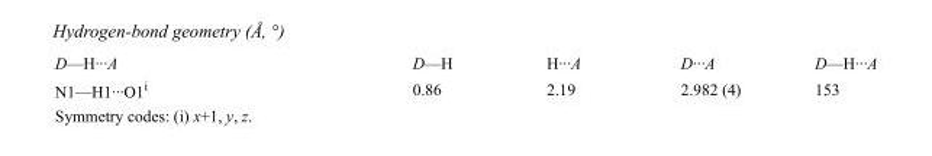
<table><tbody><tr><td>D—H···A</td><td>D—H</td><td>H···A</td><td>D···A</td><td>D—H···A</td></tr><tr><td>N1—H1···O1<sup>i</sup></td><td>0.86</td><td>2.19</td><td>2.982 (4)</td><td>153</td></tr></tbody></table>